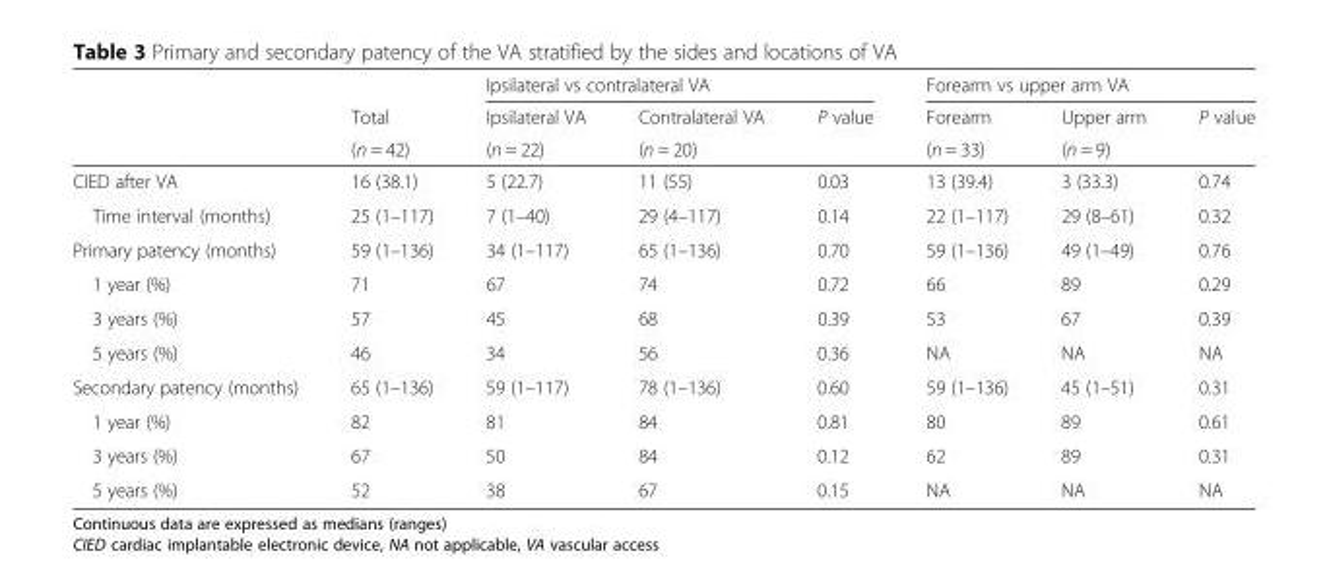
<table><thead><tr><td rowspan="3"></td><td rowspan="3">Total (n = 42)</td><td colspan="3">Ipsilateral vs contralateral VA</td><td colspan="3">Forearm vs upper arm VA</td></tr><tr><td rowspan="2">Ipsilateral VA (n = 22)</td><td rowspan="2">Contralateral VA (n = 20)</td><td rowspan="2">P value</td><td rowspan="2">Forearm (n = 33)</td><td rowspan="2">Upper arm (n = 9)</td><td rowspan="2">P value</td></tr><tr></tr></thead><tbody><tr><td>CIED after VA</td><td>16 (38.1)</td><td>5 (22.7)</td><td>11 (55)</td><td>0.03</td><td>13 (39.4)</td><td>3 (33.3)</td><td>0.74</td></tr><tr><td>Time interval (months)</td><td>25 (1–117)</td><td>7 (1–40)</td><td>29 (4–117)</td><td>0.14</td><td>22 (1–117)</td><td>29 (8–61)</td><td>0.32</td></tr><tr><td>Primary patency (months)</td><td>59 (1–136)</td><td>34 (1–117)</td><td>65 (1–136)</td><td>0.70</td><td>59 (1–136)</td><td>49 (1–49)</td><td>0.76</td></tr><tr><td>1 year (%)</td><td>71</td><td>67</td><td>74</td><td>0.72</td><td>66</td><td>89</td><td>0.29</td></tr><tr><td>3 years (%)</td><td>57</td><td>45</td><td>68</td><td>0.39</td><td>53</td><td>67</td><td>0.39</td></tr><tr><td>5 years (%)</td><td>46</td><td>34</td><td>56</td><td>0.36</td><td>NA</td><td>NA</td><td>NA</td></tr><tr><td>Secondary patency (months)</td><td>65 (1–136)</td><td>59 (1–117)</td><td>78 (1–136)</td><td>0.60</td><td>59 (1–136)</td><td>45 (1–51)</td><td>0.31</td></tr><tr><td>1 year (%)</td><td>82</td><td>81</td><td>84</td><td>0.81</td><td>80</td><td>89</td><td>0.61</td></tr><tr><td>3 years (%)</td><td>67</td><td>50</td><td>84</td><td>0.12</td><td>62</td><td>89</td><td>0.31</td></tr><tr><td>5 years (%)</td><td>52</td><td>38</td><td>67</td><td>0.15</td><td>NA</td><td>NA</td><td>NA</td></tr></tbody></table>